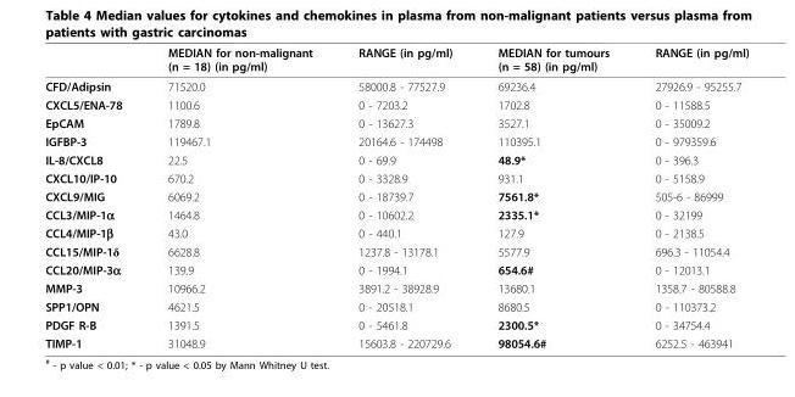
<table><thead><tr><td></td><td>MEDIAN for non-malignant (n = 18) (in pg/ml)</td><td>RANGE (in pg/ml)</td><td>MEDIAN for tumours (n = 58) (in pg/ml)</td><td>RANGE (in pg/ml)</td></tr></thead><tbody><tr><td>CFD/Adipsin</td><td>71520.0</td><td>58000.8 - 77527.9</td><td>69236.4</td><td>27926.9 - 95255.7</td></tr><tr><td>CXCL5/ENA-78</td><td>1100.6</td><td>0 - 7203.2</td><td>1702.8</td><td>0 - 11588.5</td></tr><tr><td>EpCAM</td><td>1789.8</td><td>0 - 13627.3</td><td>3527.1</td><td>0 - 35009.2</td></tr><tr><td>IGFBP-3</td><td>119467.1</td><td>20164.6 - 174498</td><td>110395.1</td><td>0 - 979359.6</td></tr><tr><td>IL-8/CXCL8</td><td>22.5</td><td>0 - 69.9</td><td>48.9*</td><td>0 - 396.3</td></tr><tr><td>CXCL10/IP-10</td><td>670.2</td><td>0 - 3328.9</td><td>931.1</td><td>0 - 5158.9</td></tr><tr><td>CXCL9/MIG</td><td>6069.2</td><td>0 - 18739.7</td><td>7561.8*</td><td>505-6 - 86999</td></tr><tr><td>CCL3/MIP-1α</td><td>1464.8</td><td>0 - 10602.2</td><td>2335.1*</td><td>0 - 32199</td></tr><tr><td>CCL4/MIP-1β</td><td>43.0</td><td>0 - 440.1</td><td>127.9</td><td>0 - 2138.5</td></tr><tr><td>CCL15/MIP-1δ</td><td>6628.8</td><td>1237.8 - 13178.1</td><td>5577.9</td><td>696.3 - 11054.4</td></tr><tr><td>CCL20/MIP-3α</td><td>139.9</td><td>0 - 1994.1</td><td>654.6#</td><td>0 - 12013.1</td></tr><tr><td>MMP-3</td><td>10966.2</td><td>3891.2 - 38928.9</td><td>13680.1</td><td>1358.7 - 80588.8</td></tr><tr><td>SPP1/OPN</td><td>4621.5</td><td>0 - 20518.1</td><td>8680.5</td><td>0 - 110373.2</td></tr><tr><td>PDGF R-B</td><td>1391.5</td><td>0 - 5461.8</td><td>2300.5*</td><td>0 - 34754.4</td></tr><tr><td>TIMP-1</td><td>31048.9</td><td>15603.8 - 220729.6</td><td>98054.6#</td><td>6252.5 - 463941</td></tr></tbody></table>